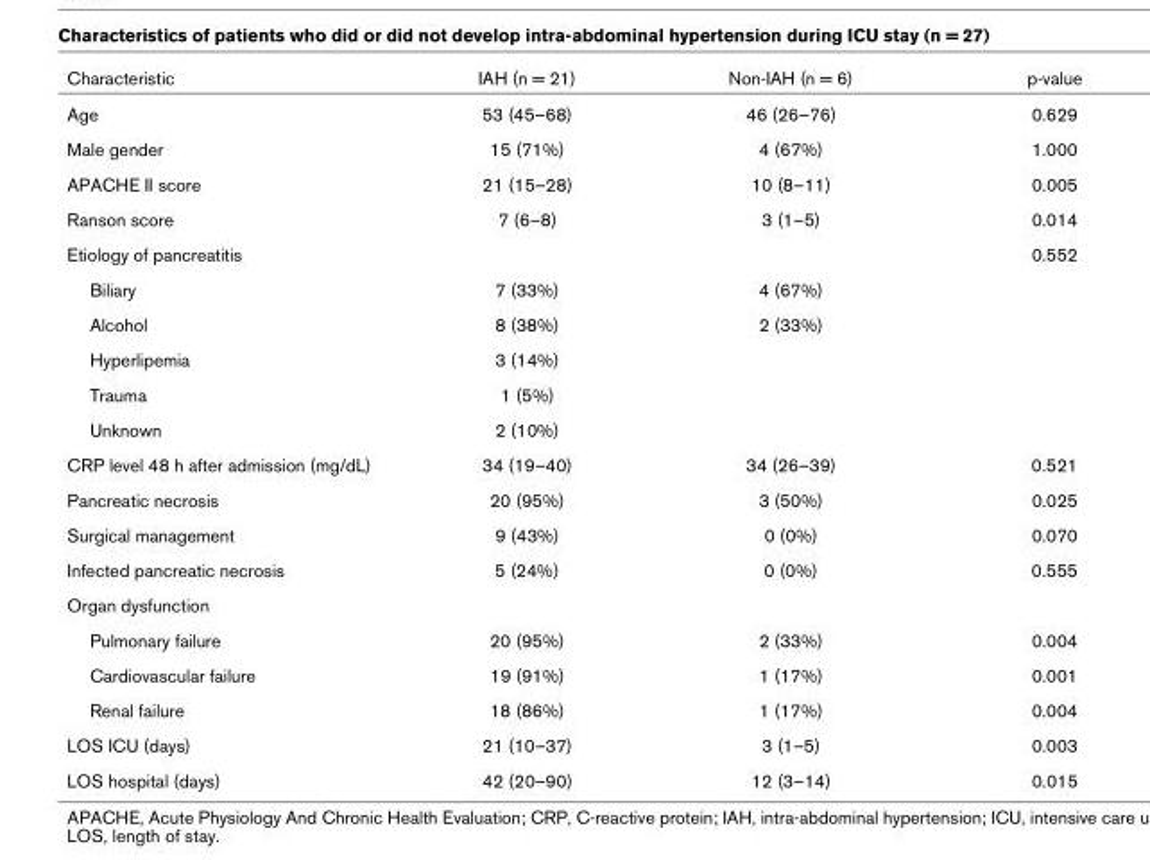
<table><thead><tr><td>Characteristic</td><td>IAH (n = 21)</td><td>Non-IAH (n = 6)</td><td>p-value</td></tr></thead><tbody><tr><td>Age</td><td>53 (45–68)</td><td>46 (26–76)</td><td>0.629</td></tr><tr><td>Male gender</td><td>15 (71%)</td><td>4 (67%)</td><td>1.000</td></tr><tr><td>APACHE II score</td><td>21 (15–28)</td><td>10 (8–11)</td><td>0.005</td></tr><tr><td>Ranson score</td><td>7 (6–8)</td><td>3 (1–5)</td><td>0.014</td></tr><tr><td>Etiology of pancreatitis</td><td></td><td></td><td>0.552</td></tr><tr><td>Biliary</td><td>7 (33%)</td><td>4 (67%)</td><td></td></tr><tr><td>Alcohol</td><td>8 (38%)</td><td>2 (33%)</td><td></td></tr><tr><td>Hyperlipemia</td><td>3 (14%)</td><td></td><td></td></tr><tr><td>Trauma</td><td>1 (5%)</td><td></td><td></td></tr><tr><td>Unknown</td><td>2 (10%)</td><td></td><td></td></tr><tr><td>CRP level 48 h after admission (mg/dL)</td><td>34 (19–40)</td><td>34 (26–39)</td><td>0.521</td></tr><tr><td>Pancreatic necrosis</td><td>20 (95%)</td><td>3 (50%)</td><td>0.025</td></tr><tr><td>Surgical management</td><td>9 (43%)</td><td>0 (0%)</td><td>0.070</td></tr><tr><td>Infected pancreatic necrosis</td><td>5 (24%)</td><td>0 (0%)</td><td>0.555</td></tr><tr><td colspan="4">Organ dysfunction</td></tr><tr><td>Pulmonary failure</td><td>20 (95%)</td><td>2 (33%)</td><td>0.004</td></tr><tr><td>Cardiovascular failure</td><td>19 (91%)</td><td>1 (17%)</td><td>0.001</td></tr><tr><td>Renal failure</td><td>18 (86%)</td><td>1 (17%)</td><td>0.004</td></tr><tr><td>LOS ICU (days)</td><td>21 (10–37)</td><td>3 (1–5)</td><td>0.003</td></tr><tr><td>LOS hospital (days)</td><td>42 (20–90)</td><td>12 (3–14)</td><td>0.015</td></tr></tbody></table>